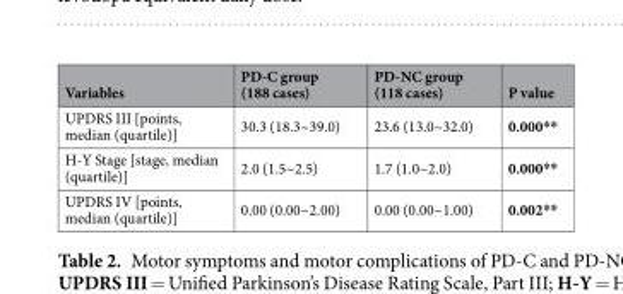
<table><thead><tr><td>Variables</td><td>PD-C group (188 cases)</td><td>PD-NC group (118 cases)</td><td>P value</td></tr></thead><tbody><tr><td>UPDRS III [points, median (quartile)]</td><td>30.3 (18.3~39.0)</td><td>23.6 (13.0~32.0)</td><td>0.000**</td></tr><tr><td>H-Y Stage [stage, median (quartile)]</td><td>2.0 (1.5~2.5)</td><td>1.7 (1.0~2.0)</td><td>0.000**</td></tr><tr><td>UPDRS IV [points, median (quartile)]</td><td>0.00 (0.00~2.00)</td><td>0.00 (0.00~1.00)</td><td>0.002**</td></tr></tbody></table>